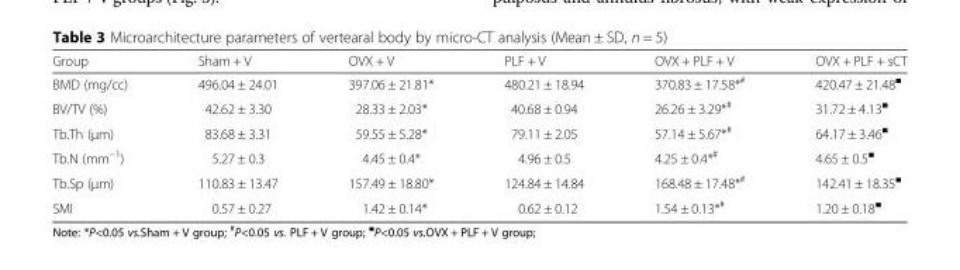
<table><thead><tr><td>Group</td><td>Sham + V</td><td>OVX + V</td><td>PLF + V</td><td>OVX + PLF + V</td><td>OVX + PLF + sCT</td></tr></thead><tbody><tr><td>BMD (mg/cc)</td><td>496.04 ± 24.01</td><td>397.06 ± 21.81*</td><td>480.21 ± 18.94</td><td>370.83 ± 17.58*<sup>#</sup></td><td>420.47 ± 21.48<sup>■</sup></td></tr><tr><td>BV/TV (%)</td><td>42.62 ± 3.30</td><td>28.33 ± 2.03*</td><td>40.68 ± 0.94</td><td>26.26 ± 3.29*<sup>#</sup></td><td>31.72 ± 4.13<sup>■</sup></td></tr><tr><td>Tb.Th (μm)</td><td>83.68 ± 3.31</td><td>59.55 ± 5.28*</td><td>79.11 ± 2.05</td><td>57.14 ± 5.67*<sup>#</sup></td><td>64.17 ± 3.46<sup>■</sup></td></tr><tr><td>Tb.N (mm<sup>−1</sup>)</td><td>5.27 ± 0.3</td><td>4.45 ± 0.4*</td><td>4.96 ± 0.5</td><td>4.25 ± 0.4*<sup>#</sup></td><td>4.65 ± 0.5<sup>■</sup></td></tr><tr><td>Tb.Sp (μm)</td><td>110.83 ± 13.47</td><td>157.49 ± 18.80*</td><td>124.84 ± 14.84</td><td>168.48 ± 17.48*<sup>#</sup></td><td>142.41 ± 18.35<sup>■</sup></td></tr><tr><td>SMI</td><td>0.57 ± 0.27</td><td>1.42 ± 0.14*</td><td>0.62 ± 0.12</td><td>1.54 ± 0.13*<sup>#</sup></td><td>1.20 ± 0.18<sup>■</sup></td></tr></tbody></table>